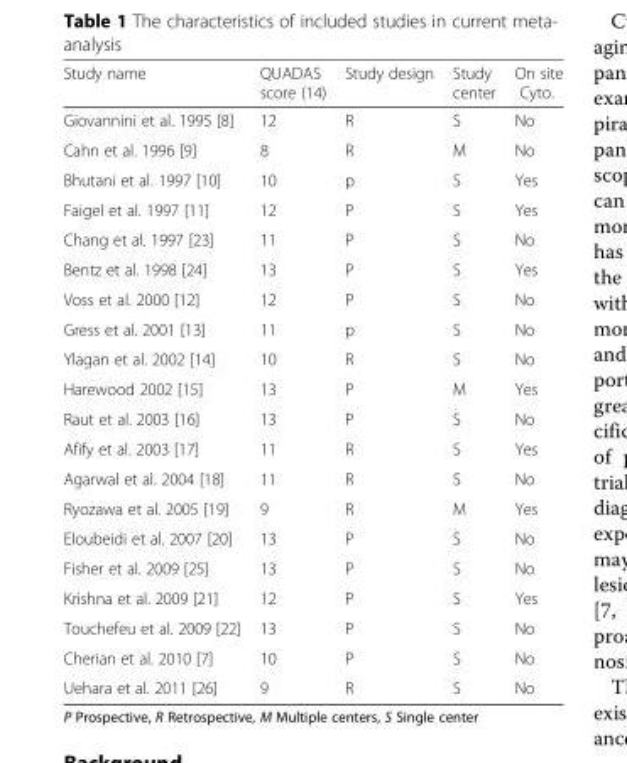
<table><thead><tr><td>Study name</td><td>QUADAS score (14)</td><td>Study design</td><td>Study center</td><td>On site Cyto.</td></tr></thead><tbody><tr><td>Giovannini et al. 1995 [8]</td><td>12</td><td>R</td><td>S</td><td>No</td></tr><tr><td>Cahn et al. 1996 [9]</td><td>8</td><td>R</td><td>M</td><td>No</td></tr><tr><td>Bhutani et al. 1997 [10]</td><td>10</td><td>p</td><td>S</td><td>Yes</td></tr><tr><td>Faigel et al. 1997 [11]</td><td>12</td><td>P</td><td>S</td><td>Yes</td></tr><tr><td>Chang et al. 1997 [23]</td><td>11</td><td>P</td><td>S</td><td>No</td></tr><tr><td>Bentz et al. 1998 [24]</td><td>13</td><td>P</td><td>S</td><td>Yes</td></tr><tr><td>Voss et al. 2000 [12]</td><td>12</td><td>P</td><td>S</td><td>No</td></tr><tr><td>Gress et al. 2001 [13]</td><td>11</td><td>p</td><td>S</td><td>No</td></tr><tr><td>Ylagan et al. 2002 [14]</td><td>10</td><td>R</td><td>S</td><td>No</td></tr><tr><td>Harewood 2002 [15]</td><td>13</td><td>P</td><td>M</td><td>Yes</td></tr><tr><td>Raut et al. 2003 [16]</td><td>13</td><td>P</td><td>S</td><td>No</td></tr><tr><td>Afify et al. 2003 [17]</td><td>11</td><td>R</td><td>S</td><td>Yes</td></tr><tr><td>Agarwal et al. 2004 [18]</td><td>11</td><td>R</td><td>S</td><td>No</td></tr><tr><td>Ryozawa et al. 2005 [19]</td><td>9</td><td>R</td><td>M</td><td>Yes</td></tr><tr><td>Eloubeidi et al. 2007 [20]</td><td>13</td><td>P</td><td>S</td><td>No</td></tr><tr><td>Fisher et al. 2009 [25]</td><td>13</td><td>P</td><td>S</td><td>No</td></tr><tr><td>Krishna et al. 2009 [21]</td><td>12</td><td>P</td><td>S</td><td>Yes</td></tr><tr><td>Touchefeu et al. 2009 [22]</td><td>13</td><td>P</td><td>S</td><td>No</td></tr><tr><td>Cherian et al. 2010 [7]</td><td>10</td><td>P</td><td>S</td><td>No</td></tr><tr><td>Uehara et al. 2011 [26]</td><td>9</td><td>R</td><td>S</td><td>No</td></tr></tbody></table>